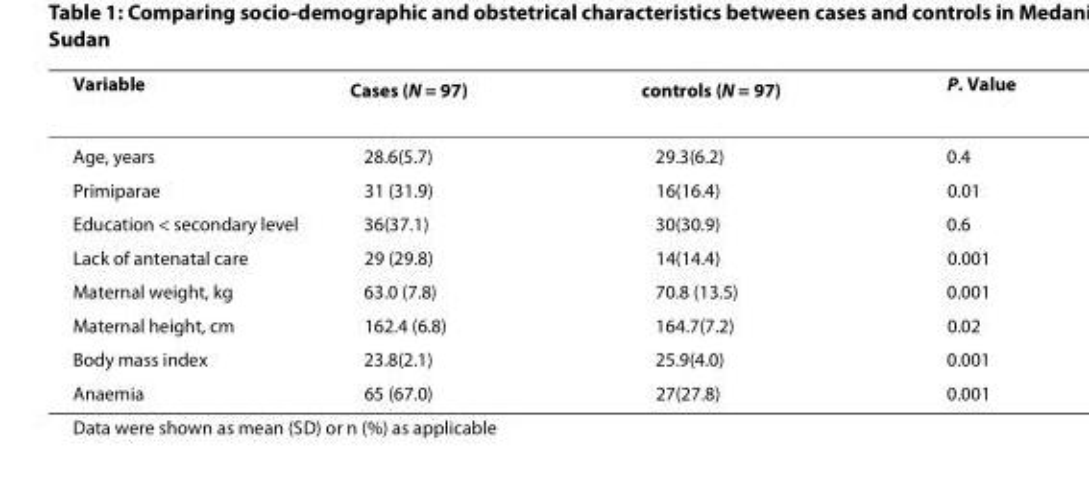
<table><thead><tr><td>Variable</td><td>Cases (N = 97)</td><td>controls (N = 97)</td><td>P. Value</td></tr></thead><tbody><tr><td>Age, years</td><td>28.6(5.7)</td><td>29.3(6.2)</td><td>0.4</td></tr><tr><td>Primiparae</td><td>31 (31.9)</td><td>16(16.4)</td><td>0.01</td></tr><tr><td>Education &lt; secondary level</td><td>36(37.1)</td><td>30(30.9)</td><td>0.6</td></tr><tr><td>Lack of antenatal care</td><td>29 (29.8)</td><td>14(14.4)</td><td>0.001</td></tr><tr><td>Maternal weight, kg</td><td>63.0 (7.8)</td><td>70.8 (13.5)</td><td>0.001</td></tr><tr><td>Maternal height, cm</td><td>162.4 (6.8)</td><td>164.7(7.2)</td><td>0.02</td></tr><tr><td>Body mass index</td><td>23.8(2.1)</td><td>25.9(4.0)</td><td>0.001</td></tr><tr><td>Anaemia</td><td>65 (67.0)</td><td>27(27.8)</td><td>0.001</td></tr></tbody></table>